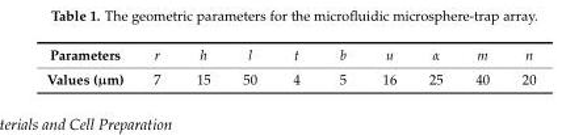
<table><tbody><tr><td>Parameters</td><td>r</td><td>h</td><td>l</td><td>t</td><td>b</td><td>u</td><td>α</td><td>m</td><td>n</td></tr><tr><td>Values (µm)</td><td>7</td><td>15</td><td>50</td><td>4</td><td>5</td><td>16</td><td>25</td><td>40</td><td>20</td></tr></tbody></table>